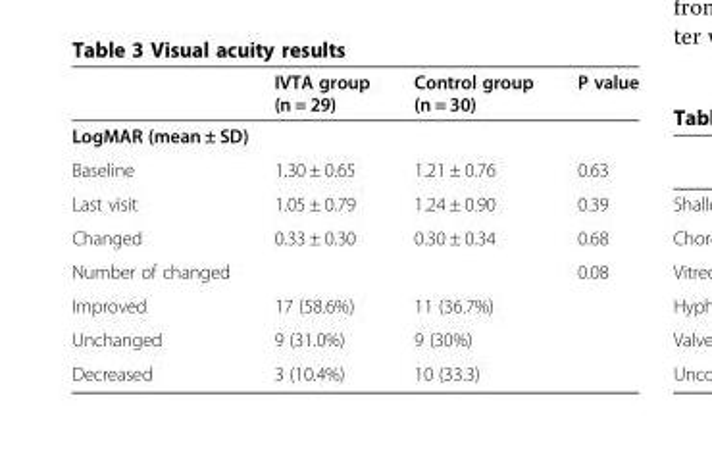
<table><thead><tr><td></td><td>IVTA group (n = 29)</td><td>Control group (n = 30)</td><td>P value</td></tr></thead><tbody><tr><td colspan="4">LogMAR (mean ± SD)</td></tr><tr><td>Baseline</td><td>1.30 ± 0.65</td><td>1.21 ± 0.76</td><td>0.63</td></tr><tr><td>Last visit</td><td>1.05 ± 0.79</td><td>1.24 ± 0.90</td><td>0.39</td></tr><tr><td>Changed</td><td>0.33 ± 0.30</td><td>0.30 ± 0.34</td><td>0.68</td></tr><tr><td>Number of changed</td><td></td><td></td><td>0.08</td></tr><tr><td>Improved</td><td>17 (58.6%)</td><td>11 (36.7%)</td><td></td></tr><tr><td>Unchanged</td><td>9 (31.0%)</td><td>9 (30%)</td><td></td></tr><tr><td>Decreased</td><td>3 (10.4%)</td><td>10 (33.3)</td><td></td></tr></tbody></table>